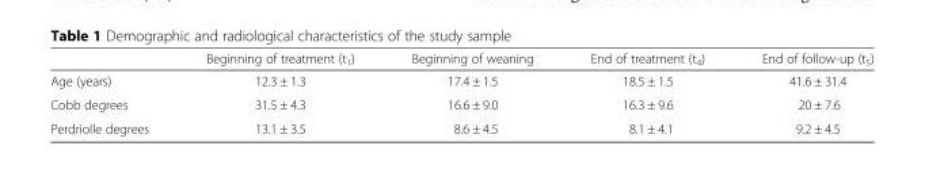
<table><thead><tr><td></td><td>Beginning of treatment (t<sub>1</sub>)</td><td>Beginning of weaning</td><td>End of treatment (t<sub>4</sub>)</td><td>End of follow-up (t<sub>5</sub>)</td></tr></thead><tbody><tr><td>Age (years)</td><td>12.3 ± 1.3</td><td>17.4 ± 1.5</td><td>18.5 ± 1.5</td><td>41.6 ± 31.4</td></tr><tr><td>Cobb degrees</td><td>31.5 ± 4.3</td><td>16.6 ± 9.0</td><td>16.3 ± 9.6</td><td>20 ± 7.6</td></tr><tr><td>Perdriolle degrees</td><td>13.1 ± 3.5</td><td>8.6 ± 4.5</td><td>8.1 ± 4.1</td><td>9.2 ± 4.5</td></tr></tbody></table>